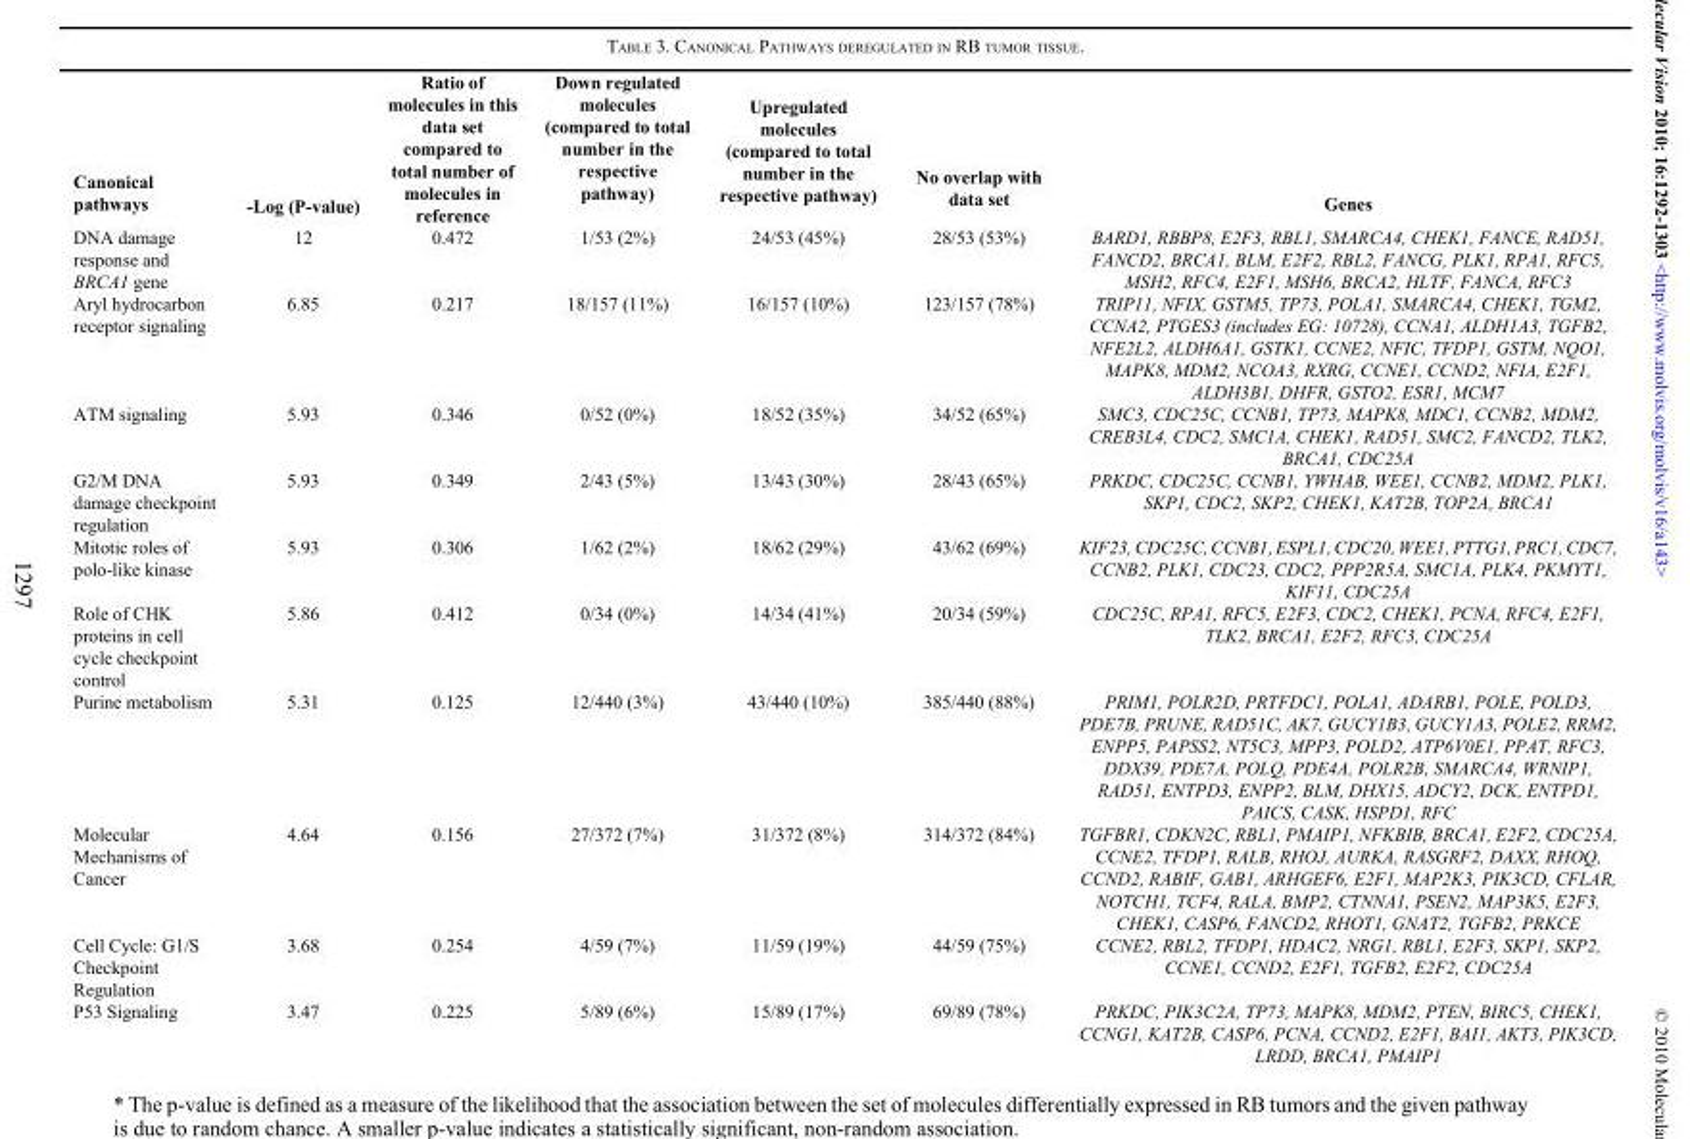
<table><thead><tr><td>Canonical pathways</td><td>-Log (P-value)</td><td>Ratio of molecules in this data set compared to total number of molecules in reference</td><td>Down regulated molecules (compared to total number in the respective pathway)</td><td>Upregulated molecules (compared to total number in the respective pathway)</td><td>No overlap with data set</td><td>Genes</td></tr></thead><tbody><tr><td>DNA damage response and BRCA1 gene</td><td>12</td><td>0.472</td><td>1/53 (2%)</td><td>24/53 (45%)</td><td>28/53 (53%)</td><td>BARD1, RBBP8, E2F3, RBL1, SMARCA4, CHEK1, FANCE, RAD51, FANCD2, BRCA1, BLM, E2F2, RBL2, FANCG, PLK1, RPA1, RFC5, MSH2, RFC4, E2F1, MSH6, BRCA2, HLTF, FANCA, RFC3</td></tr><tr><td>Aryl hydrocarbon receptor signaling</td><td>6.85</td><td>0.217</td><td>18/157 (11%)</td><td>16/157 (10%)</td><td>123/157 (78%)</td><td>TRIP11, NFIX, GSTM5, TP73, POLA1, SMARCA4, CHEK1, TGM2, CCNA2, PTGES3 (includes EG: 10728), CCNA1, ALDH1A3, TGFB2, NFE2L2, ALDH6A1, GSTK1, CCNE2, NFIC, TFDP1, GSTM, NQO1, MAPK8, MDM2, NCOA3, RXRG, CCNE1, CCND2, NFIA, E2F1, ALDH3B1, DHFR, GSTO2, ESR1, MCM7</td></tr><tr><td>ATM signaling</td><td>5.93</td><td>0.346</td><td>0/52 (0%)</td><td>18/52 (35%)</td><td>34/52 (65%)</td><td>SMC3, CDC25C, CCNB1, TP73, MAPK8, MDC1, CCNB2, MDM2, CREB3L4, CDC2, SMC1A, CHEK1, RAD51, SMC2, FANCD2, TLK2, BRCA1, CDC25A</td></tr><tr><td>G2/M DNA damage checkpoint regulation</td><td>5.93</td><td>0.349</td><td>2/43 (5%)</td><td>13/43 (30%)</td><td>28/43 (65%)</td><td>PRKDC, CDC25C, CCNB1, YWHAB, WEE1, CCNB2, MDM2, PLK1, SKP1, CDC2, SKP2, CHEK1, KAT2B, TOP2A, BRCA1</td></tr><tr><td>Mitotic roles of polo-like kinase</td><td>5.93</td><td>0.306</td><td>1/62 (2%)</td><td>18/62 (29%)</td><td>43/62 (69%)</td><td>KIF23, CDC25C, CCNB1, ESPL1, CDC20, WEE1, PTTG1, PRC1, CDC7, CCNB2, PLK1, CDC23, CDC2, PPP2R5A, SMC1A, PLK4, PKMYT1, KIF11, CDC25A</td></tr><tr><td>Role of CHK proteins in cell cycle checkpoint control</td><td>5.86</td><td>0.412</td><td>0/34 (0%)</td><td>14/34 (41%)</td><td>20/34 (59%)</td><td>CDC25C, RPA1, RFC5, E2F3, CDC2, CHEK1, PCNA, RFC4, E2F1, TLK2, BRCA1, E2F2, RFC3, CDC25A</td></tr><tr><td>Purine metabolism</td><td>5.31</td><td>0.125</td><td>12/440 (3%)</td><td>43/440 (10%)</td><td>385/440 (88%)</td><td>PRIM1, POLR2D, PRTFDC1, POLA1, ADARB1, POLE, POLD3, PDE7B, PRUNE, RAD51C, AK7, GUCY1B3, GUCY1A3, POLE2, RRM2, ENPP5, PAPSS2, NT5C3, MPP3, POLD2, ATP6V0E1, PPAT, RFC3, DDX39, PDE7A, POLQ, PDE4A, POLR2B, SMARCA4, WRNIP1, RAD51, ENTPD3, ENPP2, BLM, DHX15, ADCY2, DCK, ENTPD1, PAICS, CASK, HSPD1, RFC</td></tr><tr><td>Molecular Mechanisms of Cancer</td><td>4.64</td><td>0.156</td><td>27/372 (7%)</td><td>31/372 (8%)</td><td>314/372 (84%)</td><td>TGFBR1, CDKN2C, RBL1, PMAIP1, NFKBIB, BRCA1, E2F2, CDC25A, CCNE2, TFDP1, RALB, RHOJ, AURKA, RASGRF2, DAXX, RHOQ, CCND2, RABIF, GAB1, ARHGEF6, E2F1, MAP2K3, PIK3CD, CFLAR, NOTCH1, TCF4, RALA, BMP2, CTNNA1, PSEN2, MAP3K5, E2F3, CHEK1, CASP6, FANCD2, RHOT1, GNAT2, TGFB2, PRKCE</td></tr><tr><td>Cell Cycle: G1/S Checkpoint Regulation</td><td>3.68</td><td>0.254</td><td>4/59 (7%)</td><td>11/59 (19%)</td><td>44/59 (75%)</td><td>CCNE2, RBL2, TFDP1, HDAC2, NRG1, RBL1, E2F3, SKP1, SKP2, CCNE1, CCND2, E2F1, TGFB2, E2F2, CDC25A</td></tr><tr><td>P53 Signaling</td><td>3.47</td><td>0.225</td><td>5/89 (6%)</td><td>15/89 (17%)</td><td>69/89 (78%)</td><td>PRKDC, PIK3C2A, TP73, MAPK8, MDM2, PTEN, BIRC5, CHEK1, CCNG1, KAT2B, CASP6, PCNA, CCND2, E2F1, BAI1, AKT3, PIK3CD, LRDD, BRCA1, PMAIP1</td></tr></tbody></table>